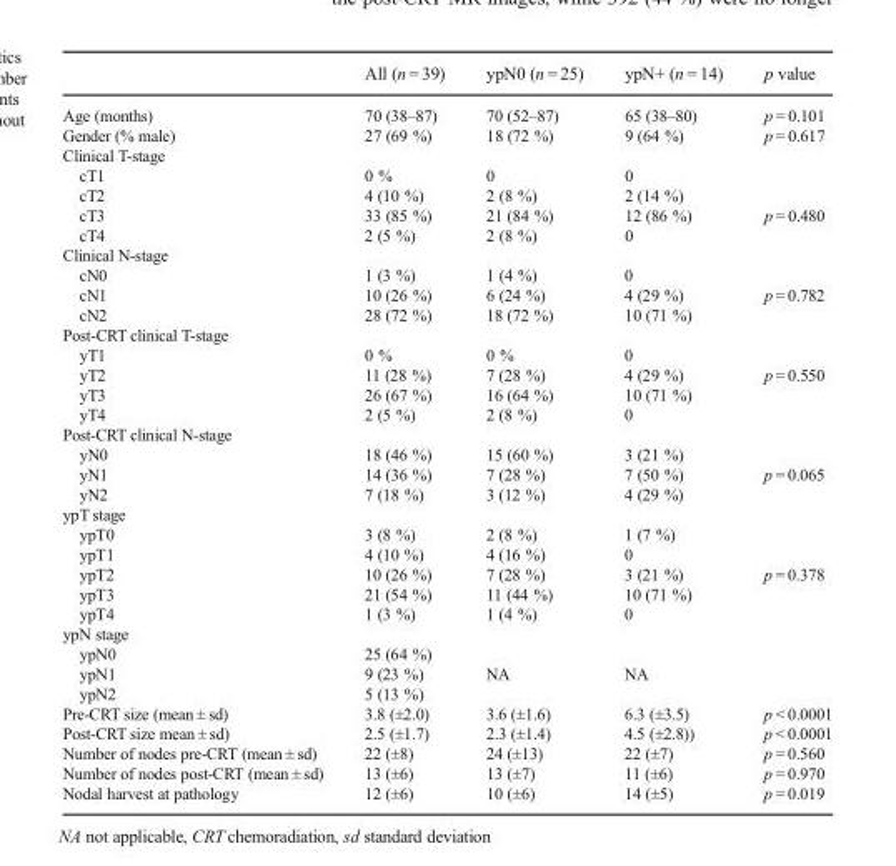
<table><thead><tr><td></td><td>All (n = 39)</td><td>ypN0 (n = 25)</td><td>ypN+ (n = 14)</td><td>p value</td></tr></thead><tbody><tr><td>Age (months)</td><td>70 (38–87)</td><td>70 (52–87)</td><td>65 (38–80)</td><td>p = 0.101</td></tr><tr><td>Gender (% male)</td><td>27 (69 %)</td><td>18 (72 %)</td><td>9 (64 %)</td><td>p = 0.617</td></tr><tr><td colspan="5">Clinical T-stage</td></tr><tr><td>cT1</td><td>0 %</td><td>0</td><td>0</td><td></td></tr><tr><td>cT2</td><td>4 (10 %)</td><td>2 (8 %)</td><td>2 (14 %)</td><td></td></tr><tr><td>cT3</td><td>33 (85 %)</td><td>21 (84 %)</td><td>12 (86 %)</td><td>p = 0.480</td></tr><tr><td>cT4</td><td>2 (5 %)</td><td>2 (8 %)</td><td>0</td><td></td></tr><tr><td colspan="5">Clinical N-stage</td></tr><tr><td>cN0</td><td>1 (3 %)</td><td>1 (4 %)</td><td>0</td><td></td></tr><tr><td>cN1</td><td>10 (26 %)</td><td>6 (24 %)</td><td>4 (29 %)</td><td>p = 0.782</td></tr><tr><td>cN2</td><td>28 (72 %)</td><td>18 (72 %)</td><td>10 (71 %)</td><td></td></tr><tr><td colspan="5">Post-CRT clinical T-stage</td></tr><tr><td>yT1</td><td>0 %</td><td>0 %</td><td>0</td><td></td></tr><tr><td>yT2</td><td>11 (28 %)</td><td>7 (28 %)</td><td>4 (29 %)</td><td>p = 0.550</td></tr><tr><td>yT3</td><td>26 (67 %)</td><td>16 (64 %)</td><td>10 (71 %)</td><td></td></tr><tr><td>yT4</td><td>2 (5 %)</td><td>2 (8 %)</td><td>0</td><td></td></tr><tr><td colspan="5">Post-CRT clinical N-stage</td></tr><tr><td>yN0</td><td>18 (46 %)</td><td>15 (60 %)</td><td>3 (21 %)</td><td></td></tr><tr><td>yN1</td><td>14 (36 %)</td><td>7 (28 %)</td><td>7 (50 %)</td><td>p = 0.065</td></tr><tr><td>yN2</td><td>7 (18 %)</td><td>3 (12 %)</td><td>4 (29 %)</td><td></td></tr><tr><td colspan="5">ypT stage</td></tr><tr><td>ypT0</td><td>3 (8 %)</td><td>2 (8 %)</td><td>1 (7 %)</td><td></td></tr><tr><td>ypT1</td><td>4 (10 %)</td><td>4 (16 %)</td><td>0</td><td></td></tr><tr><td>ypT2</td><td>10 (26 %)</td><td>7 (28 %)</td><td>3 (21 %)</td><td>p = 0.378</td></tr><tr><td>ypT3</td><td>21 (54 %)</td><td>11 (44 %)</td><td>10 (71 %)</td><td></td></tr><tr><td>ypT4</td><td>1 (3 %)</td><td>1 (4 %)</td><td>0</td><td></td></tr><tr><td colspan="5">ypN stage</td></tr><tr><td>ypN0</td><td>25 (64 %)</td><td></td><td></td><td></td></tr><tr><td>ypN1</td><td>9 (23 %)</td><td>NA</td><td>NA</td><td></td></tr><tr><td>ypN2</td><td>5 (13 %)</td><td></td><td></td><td></td></tr><tr><td>Pre-CRT size (mean ± sd)</td><td>3.8 (±2.0)</td><td>3.6 (±1.6)</td><td>6.3 (±3.5)</td><td>p &lt; 0.0001</td></tr><tr><td>Post-CRT size mean ± sd)</td><td>2.5 (±1.7)</td><td>2.3 (±1.4)</td><td>4.5 (±2.8))</td><td>p &lt; 0.0001</td></tr><tr><td>Number of nodes pre-CRT (mean ± sd)</td><td>22 (±8)</td><td>24 (±13)</td><td>22 (±7)</td><td>p = 0.560</td></tr><tr><td>Number of nodes post-CRT (mean ± sd)</td><td>13 (±6)</td><td>13 (±7)</td><td>11 (±6)</td><td>p = 0.970</td></tr><tr><td>Nodal harvest at pathology</td><td>12 (±6)</td><td>10 (±6)</td><td>14 (±5)</td><td>p = 0.019</td></tr></tbody></table>